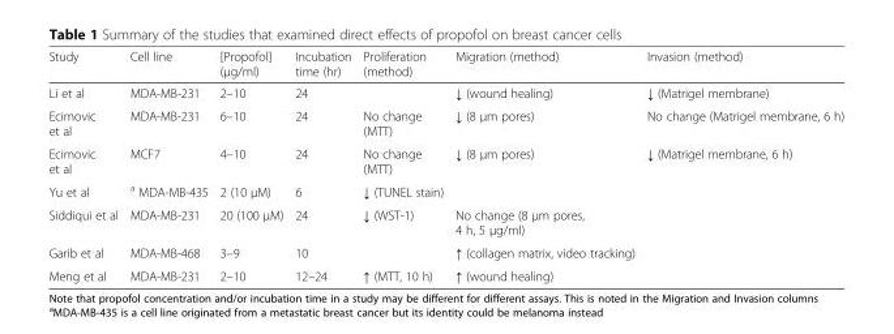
<table><thead><tr><td>Study</td><td>Cell line</td><td>[Propofol] (μg/ml)</td><td>Incubation time (hr)</td><td>Proliferation (method)</td><td>Migration (method)</td><td>Invasion (method)</td></tr></thead><tbody><tr><td>Li et al</td><td>MDA-MB-231</td><td>2–10</td><td>24</td><td></td><td>↓ (wound healing)</td><td>↓ (Matrigel membrane)</td></tr><tr><td>Ecimovic et al</td><td>MDA-MB-231</td><td>6–10</td><td>24</td><td>No change (MTT)</td><td>↓ (8 μm pores)</td><td>No change (Matrigel membrane, 6 h)</td></tr><tr><td>Ecimovic et al</td><td>MCF7</td><td>4–10</td><td>24</td><td>No change (MTT)</td><td>↓ (8 μm pores)</td><td>↓ (Matrigel membrane, 6 h)</td></tr><tr><td>Yu et al</td><td><sup>a</sup> MDA-MB-435</td><td>2 (10 μM)</td><td>6</td><td>↓ (TUNEL stain)</td><td></td><td></td></tr><tr><td>Siddiqui et al</td><td>MDA-MB-231</td><td>20 (100 μM)</td><td>24</td><td>↓ (WST-1)</td><td>No change (8 μm pores, 4 h, 5 μg/ml)</td><td></td></tr><tr><td>Garib et al</td><td>MDA-MB-468</td><td>3–9</td><td>10</td><td></td><td>↑ (collagen matrix, video tracking)</td><td></td></tr><tr><td>Meng et al</td><td>MDA-MB-231</td><td>2–10</td><td>12–24</td><td>↑ (MTT, 10 h)</td><td>↑ (wound healing)</td><td></td></tr></tbody></table>